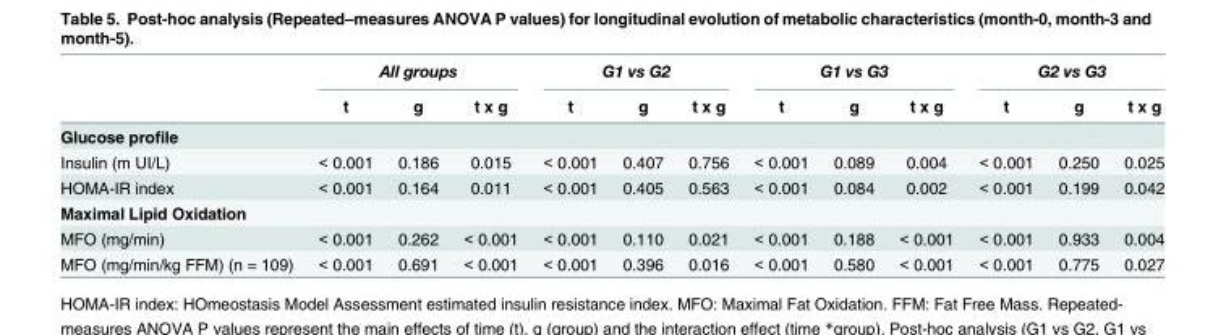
<table><thead><tr><td rowspan="2"></td><td colspan="3">All groups</td><td colspan="3">G1 vs G2</td><td colspan="3">G1 vs G3</td><td colspan="3">G2 vs G3</td></tr><tr><td>t</td><td>g</td><td>t x g</td><td>t</td><td>g</td><td>t x g</td><td>t</td><td>g</td><td>t x g</td><td>t</td><td>g</td><td>t x g</td></tr></thead><tbody><tr><td colspan="13">Glucose profile</td></tr><tr><td>Insulin (m UI/L)</td><td>&lt; 0.001</td><td>0.186</td><td>0.015</td><td>&lt; 0.001</td><td>0.407</td><td>0.756</td><td>&lt; 0.001</td><td>0.089</td><td>0.004</td><td>&lt; 0.001</td><td>0.250</td><td>0.025</td></tr><tr><td>HOMA-IR index</td><td>&lt; 0.001</td><td>0.164</td><td>0.011</td><td>&lt; 0.001</td><td>0.405</td><td>0.563</td><td>&lt; 0.001</td><td>0.084</td><td>0.002</td><td>&lt; 0.001</td><td>0.199</td><td>0.042</td></tr><tr><td colspan="13">Maximal Lipid Oxidation</td></tr><tr><td>MFO (mg/min)</td><td>&lt; 0.001</td><td>0.262</td><td>&lt; 0.001</td><td>&lt; 0.001</td><td>0.110</td><td>0.021</td><td>&lt; 0.001</td><td>0.188</td><td>&lt; 0.001</td><td>&lt; 0.001</td><td>0.933</td><td>0.004</td></tr><tr><td>MFO (mg/min/kg FFM) (n = 109)</td><td>&lt; 0.001</td><td>0.691</td><td>&lt; 0.001</td><td>&lt; 0.001</td><td>0.396</td><td>0.016</td><td>&lt; 0.001</td><td>0.580</td><td>&lt; 0.001</td><td>&lt; 0.001</td><td>0.775</td><td>0.027</td></tr></tbody></table>